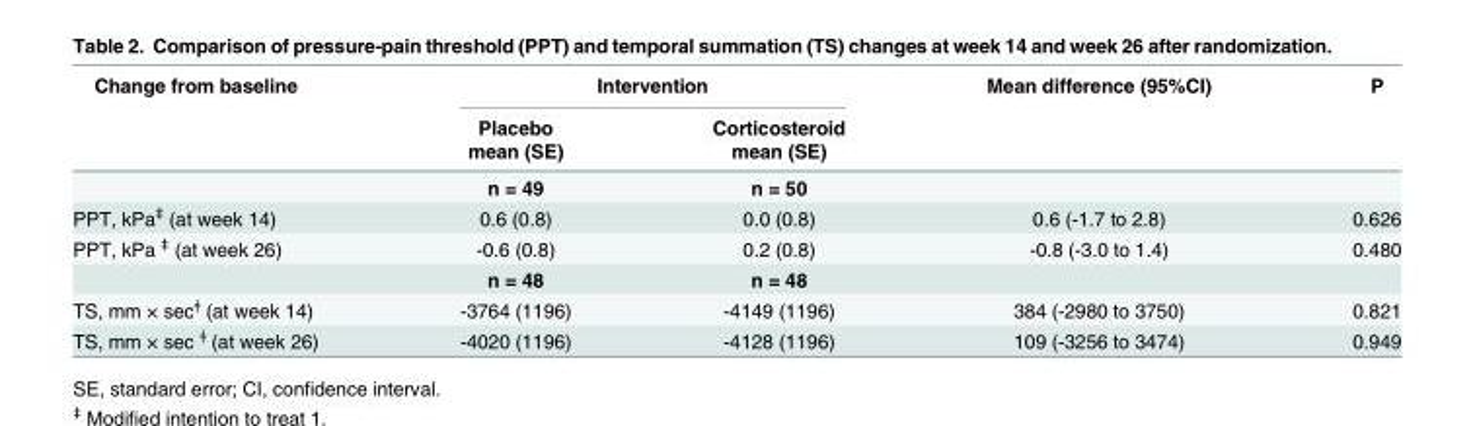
<table><thead><tr><td rowspan="3">Change from baseline</td><td colspan="2">Intervention</td><td rowspan="3">Mean difference (95%CI)</td><td rowspan="3">P</td></tr><tr><td rowspan="2">Placebo mean (SE)</td><td rowspan="2">Corticosteroid mean (SE)</td></tr><tr></tr></thead><tbody><tr><td></td><td>n = 49</td><td>n = 50</td><td></td><td></td></tr><tr><td>PPT, kPa<sup>‡</sup> (at week 14)</td><td>0.6 (0.8)</td><td>0.0 (0.8)</td><td>0.6 (-1.7 to 2.8)</td><td>0.626</td></tr><tr><td rowspan="2">PPT, kPa <sup>‡</sup> (at week 26)</td><td>-0.6 (0.8)</td><td>0.2 (0.8)</td><td>-0.8 (-3.0 to 1.4)</td><td>0.480</td></tr><tr><td>n = 48</td><td>n = 48</td><td></td><td></td></tr><tr><td>TS, mm × sec<sup>ǂ</sup> (at week 14)</td><td>-3764 (1196)</td><td>-4149 (1196)</td><td>384 (-2980 to 3750)</td><td>0.821</td></tr><tr><td>TS, mm × sec <sup>ǂ</sup> (at week 26)</td><td>-4020 (1196)</td><td>-4128 (1196)</td><td>109 (-3256 to 3474)</td><td>0.949</td></tr></tbody></table>